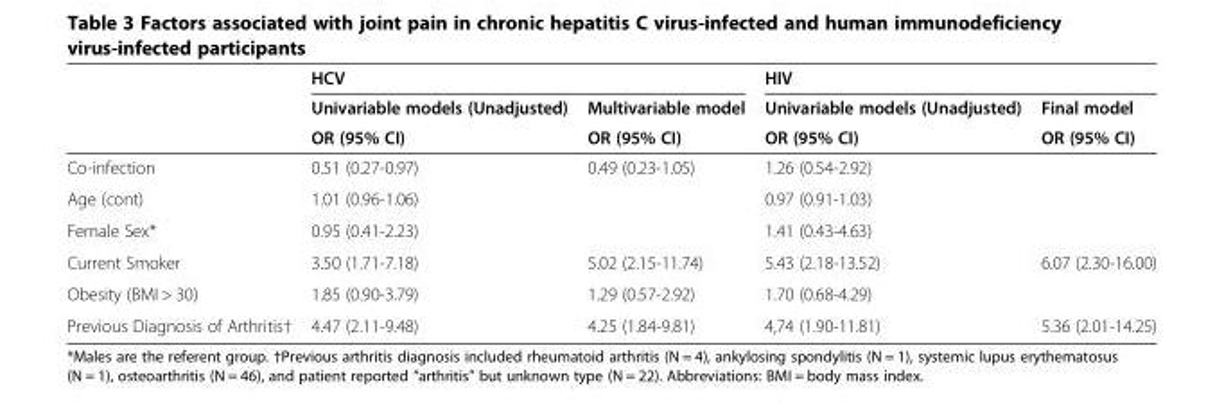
<table><thead><tr><td rowspan="3"></td><td colspan="2">HCV</td><td colspan="2">HIV</td></tr><tr><td rowspan="2">Univariable models (Unadjusted) OR (95% CI)</td><td rowspan="2">Multivariable model OR (95% CI)</td><td rowspan="2">Univariable models (Unadjusted) OR (95% CI)</td><td rowspan="2">Final model OR (95% CI)</td></tr><tr></tr></thead><tbody><tr><td>Co-infection</td><td>0.51 (0.27-0.97)</td><td>0.49 (0.23-1.05)</td><td>1.26 (0.54-2.92)</td><td></td></tr><tr><td>Age (cont)</td><td>1.01 (0.96-1.06)</td><td></td><td>0.97 (0.91-1.03)</td><td></td></tr><tr><td>Female Sex*</td><td>0.95 (0.41-2.23)</td><td></td><td>1.41 (0.43-4.63)</td><td></td></tr><tr><td>Current Smoker</td><td>3.50 (1.71-7.18)</td><td>5.02 (2.15-11.74)</td><td>5.43 (2.18-13.52)</td><td>6.07 (2.30-16.00)</td></tr><tr><td>Obesity (BMI &gt; 30)</td><td>1.85 (0.90-3.79)</td><td>1.29 (0.57-2.92)</td><td>1.70 (0.68-4.29)</td><td></td></tr><tr><td>Previous Diagnosis of Arthritis†</td><td>4.47 (2.11-9.48)</td><td>4.25 (1.84-9.81)</td><td>4,74 (1.90-11.81)</td><td>5.36 (2.01-14.25)</td></tr></tbody></table>